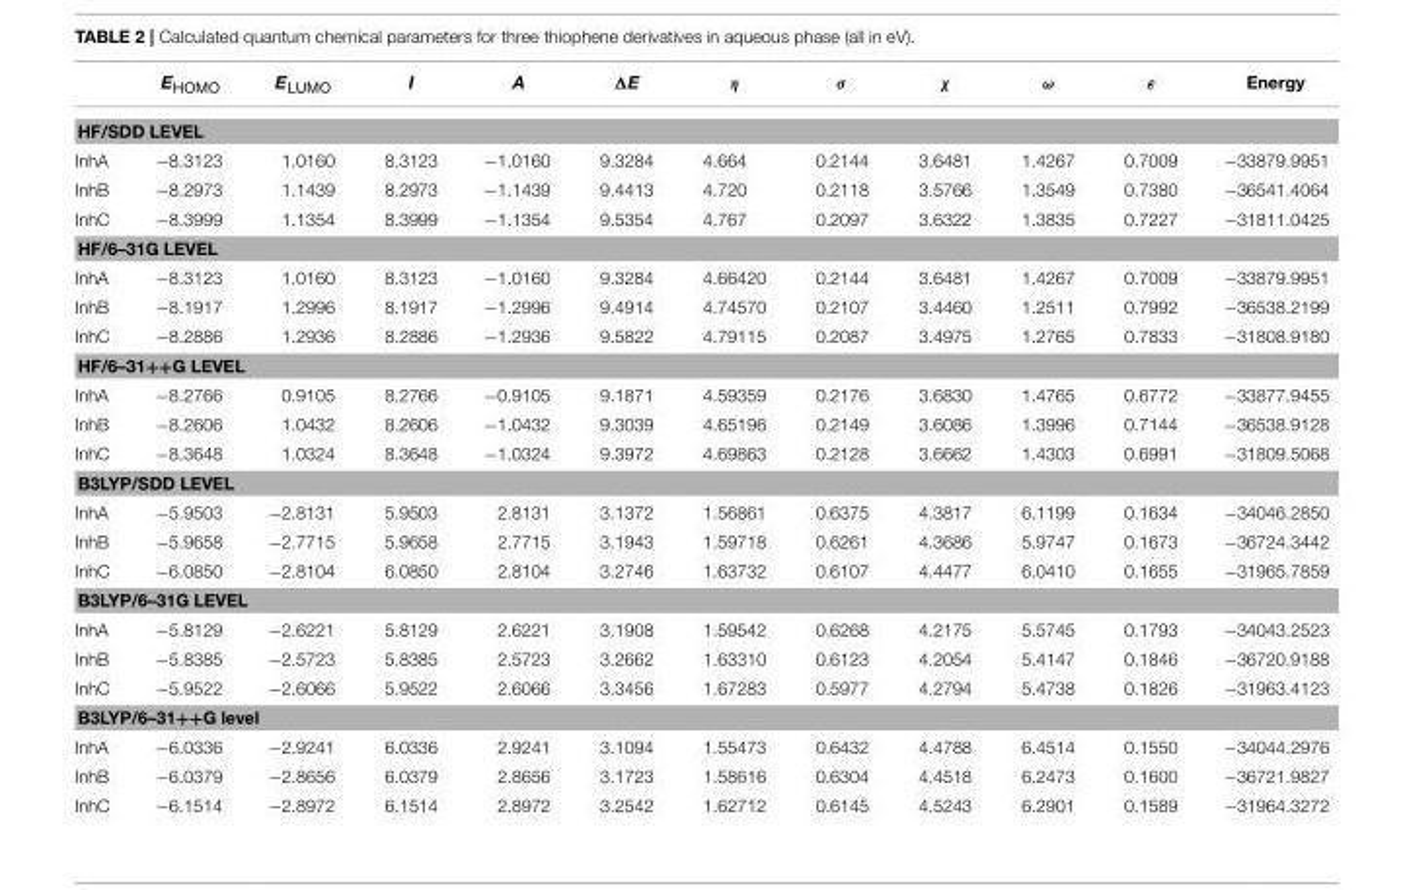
<table><thead><tr><td></td><td>E<sub>HOMO</sub></td><td>E<sub>LUMO</sub></td><td>I</td><td>A</td><td>ΔE</td><td>η</td><td>σ</td><td>χ</td><td>ω</td><td>ε</td><td>Energy</td></tr></thead><tbody><tr><td colspan="12">HF/SDD LEVEL</td></tr><tr><td>InhA</td><td>−8.3123</td><td>1.0160</td><td>8.3123</td><td>−1.0160</td><td>9.3284</td><td>4.664</td><td>0.2144</td><td>3.6481</td><td>1.4267</td><td>0.7009</td><td>−33879.9951</td></tr><tr><td>InhB</td><td>−8.2973</td><td>1.1439</td><td>8.2973</td><td>−1.1439</td><td>9.4413</td><td>4.720</td><td>0.2118</td><td>3.5766</td><td>1.3549</td><td>0.7380</td><td>−36541.4064</td></tr><tr><td>InhC</td><td>−8.3999</td><td>1.1354</td><td>8.3999</td><td>−1.1354</td><td>9.5354</td><td>4.767</td><td>0.2097</td><td>3.6322</td><td>1.3835</td><td>0.7227</td><td>−31811.0425</td></tr><tr><td colspan="12">HF/6–31G LEVEL</td></tr><tr><td>InhA</td><td>−8.3123</td><td>1.0160</td><td>8.3123</td><td>−1.0160</td><td>9.3284</td><td>4.66420</td><td>0.2144</td><td>3.6481</td><td>1.4267</td><td>0.7009</td><td>−33879.9951</td></tr><tr><td>InhB</td><td>−8.1917</td><td>1.2996</td><td>8.1917</td><td>−1.2996</td><td>9.4914</td><td>4.74570</td><td>0.2107</td><td>3.4460</td><td>1.2511</td><td>0.7992</td><td>−36538.2199</td></tr><tr><td>InhC</td><td>−8.2886</td><td>1.2936</td><td>8.2886</td><td>−1.2936</td><td>9.5822</td><td>4.79115</td><td>0.2087</td><td>3.4975</td><td>1.2765</td><td>0.7833</td><td>−31808.9180</td></tr><tr><td colspan="12">HF/6–31++G LEVEL</td></tr><tr><td>InhA</td><td>−8.2766</td><td>0.9105</td><td>8.2766</td><td>−0.9105</td><td>9.1871</td><td>4.59359</td><td>0.2176</td><td>3.6830</td><td>1.4765</td><td>0.6772</td><td>−33877.9455</td></tr><tr><td>InhB</td><td>−8.2606</td><td>1.0432</td><td>8.2606</td><td>−1.0432</td><td>9.3039</td><td>4.65196</td><td>0.2149</td><td>3.6086</td><td>1.3996</td><td>0.7144</td><td>−36538.9128</td></tr><tr><td>InhC</td><td>−8.3648</td><td>1.0324</td><td>8.3648</td><td>−1.0324</td><td>9.3972</td><td>4.69863</td><td>0.2128</td><td>3.6662</td><td>1.4303</td><td>0.6991</td><td>−31809.5068</td></tr><tr><td colspan="12">B3LYP/SDD LEVEL</td></tr><tr><td>InhA</td><td>−5.9503</td><td>−2.8131</td><td>5.9503</td><td>2.8131</td><td>3.1372</td><td>1.56861</td><td>0.6375</td><td>4.3817</td><td>6.1199</td><td>0.1634</td><td>−34046.2850</td></tr><tr><td>InhB</td><td>−5.9658</td><td>−2.7715</td><td>5.9658</td><td>2.7715</td><td>3.1943</td><td>1.59718</td><td>0.6261</td><td>4.3686</td><td>5.9747</td><td>0.1673</td><td>−36724.3442</td></tr><tr><td>InhC</td><td>−6.0850</td><td>−2.8104</td><td>6.0850</td><td>2.8104</td><td>3.2746</td><td>1.63732</td><td>0.6107</td><td>4.4477</td><td>6.0410</td><td>0.1655</td><td>−31965.7859</td></tr><tr><td colspan="12">B3LYP/6–31G LEVEL</td></tr><tr><td>InhA</td><td>−5.8129</td><td>−2.6221</td><td>5.8129</td><td>2.6221</td><td>3.1908</td><td>1.59542</td><td>0.6268</td><td>4.2175</td><td>5.5745</td><td>0.1793</td><td>−34043.2523</td></tr><tr><td>InhB</td><td>−5.8385</td><td>−2.5723</td><td>5.8385</td><td>2.5723</td><td>3.2662</td><td>1.63310</td><td>0.6123</td><td>4.2054</td><td>5.4147</td><td>0.1846</td><td>−36720.9188</td></tr><tr><td>InhC</td><td>−5.9522</td><td>−2.6066</td><td>5.9522</td><td>2.6066</td><td>3.3456</td><td>1.67283</td><td>0.5977</td><td>4.2794</td><td>5.4738</td><td>0.1826</td><td>−31963.4123</td></tr><tr><td colspan="12">B3LYP/6–31++G level</td></tr><tr><td>InhA</td><td>−6.0336</td><td>−2.9241</td><td>6.0336</td><td>2.9241</td><td>3.1094</td><td>1.55473</td><td>0.6432</td><td>4.4788</td><td>6.4514</td><td>0.1550</td><td>−34044.2976</td></tr><tr><td>InhB</td><td>−6.0379</td><td>−2.8656</td><td>6.0379</td><td>2.8656</td><td>3.1723</td><td>1.58616</td><td>0.6304</td><td>4.4518</td><td>6.2473</td><td>0.1600</td><td>−36721.9827</td></tr><tr><td>InhC</td><td>−6.1514</td><td>−2.8972</td><td>6.1514</td><td>2.8972</td><td>3.2542</td><td>1.62712</td><td>0.6145</td><td>4.5243</td><td>6.2901</td><td>0.1589</td><td>−31964.3272</td></tr></tbody></table>